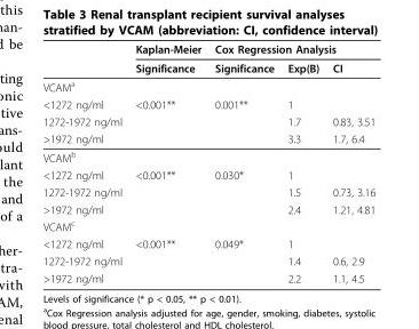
<table><thead><tr><td rowspan="2"></td><td rowspan="2">Kaplan-Meier Significance</td><td colspan="3">Cox Regression Analysis</td></tr><tr><td>Significance</td><td>Exp(B)</td><td>CI</td></tr></thead><tbody><tr><td colspan="5">VCAM<sup>a</sup></td></tr><tr><td>&lt;1272 ng/ml</td><td>&lt;0.001**</td><td>0.001**</td><td>1</td><td></td></tr><tr><td>1272-1972 ng/ml</td><td></td><td></td><td>1.7</td><td>0.83, 3.51</td></tr><tr><td>&gt;1972 ng/ml</td><td></td><td></td><td>3.3</td><td>1.7, 6.4</td></tr><tr><td colspan="5">VCAM<sup>b</sup></td></tr><tr><td>&lt;1272 ng/ml</td><td>&lt;0.001**</td><td>0.030*</td><td>1</td><td></td></tr><tr><td>1272-1972 ng/ml</td><td></td><td></td><td>1.5</td><td>0.73, 3.16</td></tr><tr><td>&gt;1972 ng/ml</td><td></td><td></td><td>2.4</td><td>1.21, 4.81</td></tr><tr><td colspan="5">VCAM<sup>c</sup></td></tr><tr><td>&lt;1272 ng/ml</td><td>&lt;0.001**</td><td>0.049*</td><td>1</td><td></td></tr><tr><td>1272-1972 ng/ml</td><td></td><td></td><td>1.4</td><td>0.6, 2.9</td></tr><tr><td>&gt;1972 ng/ml</td><td></td><td></td><td>2.2</td><td>1.1, 4.5</td></tr></tbody></table>